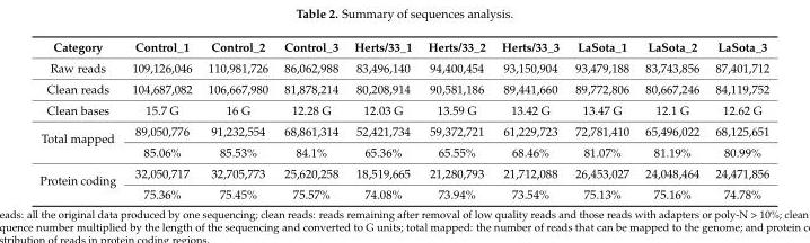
<table><thead><tr><td>Category</td><td>Control_1</td><td>Control_2</td><td>Control_3</td><td>Herts/33_1</td><td>Herts/33_2</td><td>Herts/33_3</td><td>LaSota_1</td><td>LaSota_2</td><td>LaSota_3</td></tr></thead><tbody><tr><td>Raw reads</td><td>109,126,046</td><td>110,981,726</td><td>86,062,988</td><td>83,496,140</td><td>94,400,454</td><td>93,150,904</td><td>93,479,188</td><td>83,743,856</td><td>87,401,712</td></tr><tr><td>Clean reads</td><td>104,687,082</td><td>106,667,980</td><td>81,878,214</td><td>80,208,914</td><td>90,581,186</td><td>89,441,660</td><td>89,772,806</td><td>80,667,246</td><td>84,119,752</td></tr><tr><td>Clean bases</td><td>15.7 G</td><td>16 G</td><td>12.28 G</td><td>12.03 G</td><td>13.59 G</td><td>13.42 G</td><td>13.47 G</td><td>12.1 G</td><td>12.62 G</td></tr><tr><td rowspan="2">Total mapped</td><td>89,050,776</td><td>91,232,554</td><td>68,861,314</td><td>52,421,734</td><td>59,372,721</td><td>61,229,723</td><td>72,781,410</td><td>65,496,022</td><td>68,125,651</td></tr><tr><td>85.06%</td><td>85.53%</td><td>84.1%</td><td>65.36%</td><td>65.55%</td><td>68.46%</td><td>81.07%</td><td>81.19%</td><td>80.99%</td></tr><tr><td rowspan="2">Protein coding</td><td>32,050,717</td><td>32,705,773</td><td>25,620,258</td><td>18,519,665</td><td>21,280,793</td><td>21,712,088</td><td>26,453,027</td><td>24,048,464</td><td>24,471,856</td></tr><tr><td>75.36%</td><td>75.45%</td><td>75.57%</td><td>74.08%</td><td>73.94%</td><td>73.54%</td><td>75.13%</td><td>75.16%</td><td>74.78%</td></tr></tbody></table>